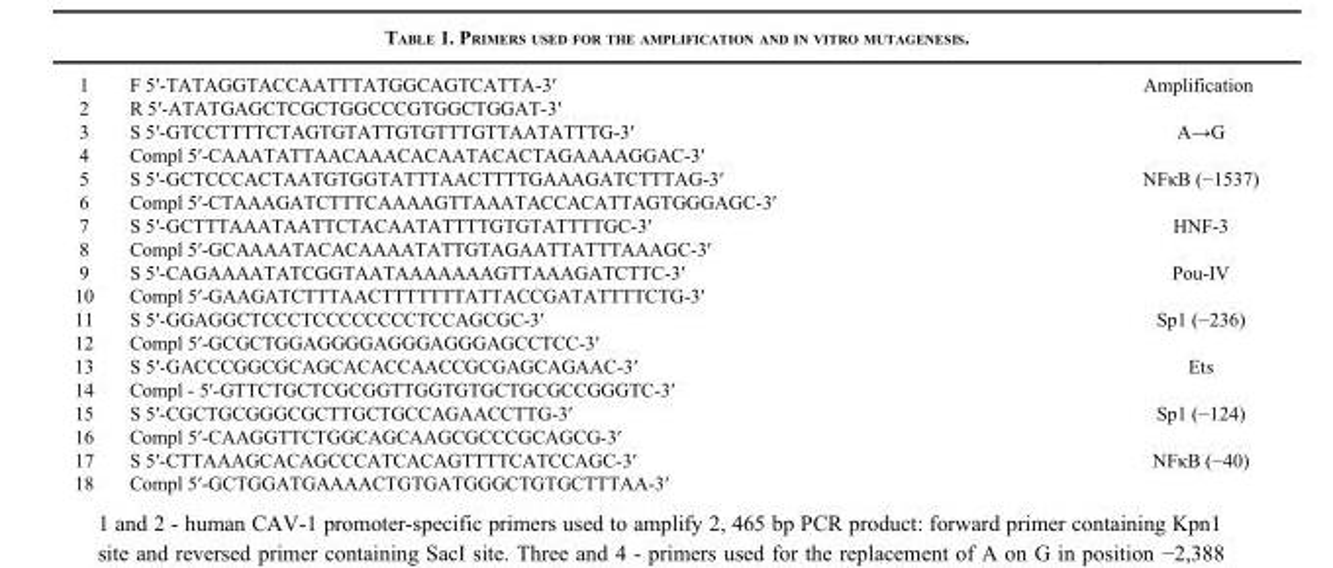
<table><thead><tr><td>1</td><td>F 5′-TATAGGTACCAATTTATGGCAGTCATTA-3′</td><td>Amplification</td></tr></thead><tbody><tr><td>2</td><td>R 5′-ATATGAGCTCGCTGGCCCGTGGCTGGAT-3′</td><td></td></tr><tr><td>3</td><td>S 5′-GTCCTTTTCTAGTGTATTGTGTTTGTTAATATTTG-3′</td><td>A→G</td></tr><tr><td>4</td><td>Compl 5′-CAAATATTAACAAACACAATACACTAGAAAAGGAC-3′</td><td></td></tr><tr><td>5</td><td>S 5′-GCTCCCACTAATGTGGTATTTAACTTTTGAAAGATCTTTAG-3′</td><td>NFκB (−1537)</td></tr><tr><td>6</td><td>Compl 5′-CTAAAGATCTTTCAAAAGTTAAATACCACATTAGTGGGAGC-3′</td><td></td></tr><tr><td>7</td><td>S 5′-GCTTTAAATAATTCTACAATATTTTGTGTATTTTGC-3′</td><td>HNF-3</td></tr><tr><td>8</td><td>Compl 5′-GCAAAATACACAAAATATTGTAGAATTATTTAAAGC-3′</td><td></td></tr><tr><td>9</td><td>S 5′-CAGAAAATATCGGTAATAAAAAAAGTTAAAGATCTTC-3′</td><td>Pou-IV</td></tr><tr><td>10</td><td>Compl 5′-GAAGATCTTTAACTTTTTTTATTACCGATATTTTCTG-3′</td><td></td></tr><tr><td>11</td><td>S 5′-GGAGGCTCCCTCCCCCCCCTCCAGCGC-3′</td><td>Sp1 (−236)</td></tr><tr><td>12</td><td>Compl 5′-GCGCTGGAGGGGAGGGAGGGAGCCTCC-3′</td><td></td></tr><tr><td>13</td><td>S 5′-GACCCGGCGCAGCACACCAACCGCGAGCAGAAC-3′</td><td>Ets</td></tr><tr><td>14</td><td>Compl - 5′-GTTCTGCTCGCGGTTGGTGTGCTGCGCCGGGTC-3′</td><td></td></tr><tr><td>15</td><td>S 5′-CGCTGCGGGCGCTTGCTGCCAGAACCTTG-3′</td><td>Sp1 (−124)</td></tr><tr><td>16</td><td>Compl 5′-CAAGGTTCTGGCAGCAAGCGCCCGCAGCG-3′</td><td></td></tr><tr><td>17</td><td>S 5′-CTTAAAGCACAGCCCATCACAGTTTTCATCCAGC-3′</td><td>NFκB (−40)</td></tr><tr><td>18</td><td>Compl 5′-GCTGGATGAAAACTGTGATGGGCTGTGCTTTAA-3′</td><td></td></tr></tbody></table>